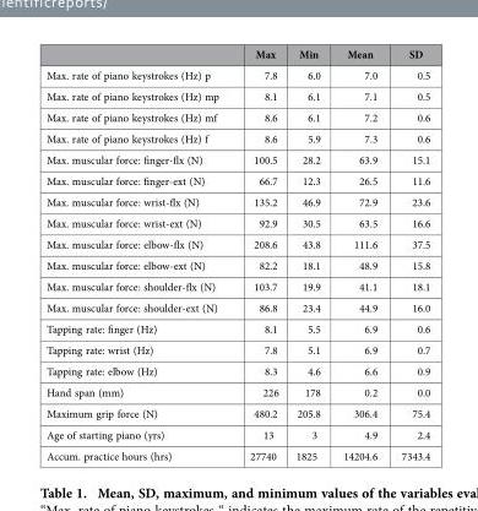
<table><thead><tr><td></td><td>Max</td><td>Min</td><td>Mean</td><td>SD</td></tr></thead><tbody><tr><td>Max. rate of piano keystrokes (Hz) p</td><td>7.8</td><td>6.0</td><td>7.0</td><td>0.5</td></tr><tr><td>Max. rate of piano keystrokes (Hz) mp</td><td>8.1</td><td>6.1</td><td>7.1</td><td>0.5</td></tr><tr><td>Max. rate of piano keystrokes (Hz) mf</td><td>8.6</td><td>6.1</td><td>7.2</td><td>0.6</td></tr><tr><td>Max. rate of piano keystrokes (Hz) f</td><td>8.6</td><td>5.9</td><td>7.3</td><td>0.6</td></tr><tr><td>Max. muscular force: finger-flx (N)</td><td>100.5</td><td>28.2</td><td>63.9</td><td>15.1</td></tr><tr><td>Max. muscular force: finger-ext (N)</td><td>66.7</td><td>12.3</td><td>26.5</td><td>11.6</td></tr><tr><td>Max. muscular force: wrist-flx (N)</td><td>135.2</td><td>46.9</td><td>72.9</td><td>23.6</td></tr><tr><td>Max. muscular force: wrist-ext (N)</td><td>92.9</td><td>30.5</td><td>63.5</td><td>16.6</td></tr><tr><td>Max. muscular force: elbow-flx (N)</td><td>208.6</td><td>43.8</td><td>111.6</td><td>37.5</td></tr><tr><td>Max. muscular force: elbow-ext (N)</td><td>82.2</td><td>18.1</td><td>48.9</td><td>15.8</td></tr><tr><td>Max. muscular force: shoulder-flx (N)</td><td>103.7</td><td>19.9</td><td>41.1</td><td>18.1</td></tr><tr><td>Max. muscular force: shoulder-ext (N)</td><td>86.8</td><td>23.4</td><td>44.9</td><td>16.0</td></tr><tr><td>Tapping rate: finger (Hz)</td><td>8.1</td><td>5.5</td><td>6.9</td><td>0.6</td></tr><tr><td>Tapping rate: wrist (Hz)</td><td>7.8</td><td>5.1</td><td>6.9</td><td>0.7</td></tr><tr><td>Tapping rate: elbow (Hz)</td><td>8.3</td><td>4.6</td><td>6.6</td><td>0.9</td></tr><tr><td>Hand span (mm)</td><td>226</td><td>178</td><td>0.2</td><td>0.0</td></tr><tr><td>Maximum grip force (N)</td><td>480.2</td><td>205.8</td><td>306.4</td><td>75.4</td></tr><tr><td>Age of starting piano (yrs)</td><td>13</td><td>3</td><td>4.9</td><td>2.4</td></tr><tr><td>Accum. practice hours (hrs)</td><td>27740</td><td>1825</td><td>14204.6</td><td>7343.4</td></tr></tbody></table>